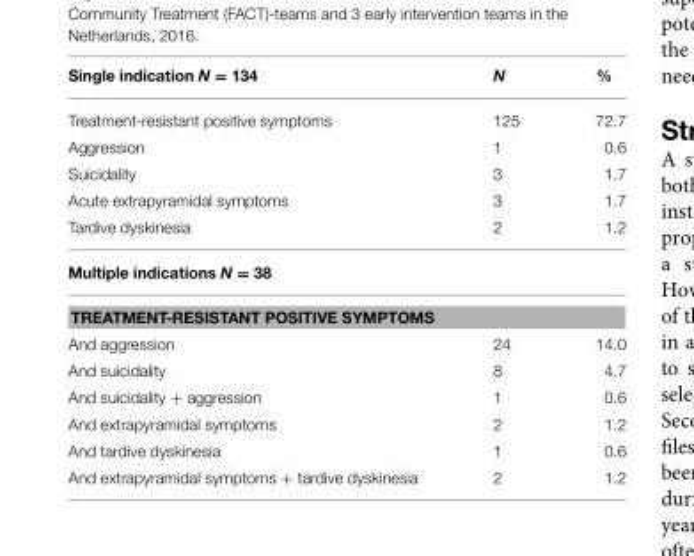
<table><thead><tr><td>Single indication N = 134</td><td>N</td><td>%</td></tr></thead><tbody><tr><td>Treatment-resistant positive symptoms</td><td>125</td><td>72.7</td></tr><tr><td>Aggression</td><td>1</td><td>0.6</td></tr><tr><td>Suicidality</td><td>3</td><td>1.7</td></tr><tr><td>Acute extrapyramidal symptoms</td><td>3</td><td>1.7</td></tr><tr><td>Tardive dyskinesia</td><td>2</td><td>1.2</td></tr><tr><td colspan="3">Multiple indications N = 38</td></tr><tr><td colspan="3">TREATMENT-RESISTANT POSITIVE SYMPTOMS</td></tr><tr><td>And aggression</td><td>24</td><td>14.0</td></tr><tr><td>And suicidality</td><td>8</td><td>4.7</td></tr><tr><td>And suicidality + aggression</td><td>1</td><td>0.6</td></tr><tr><td>And extrapyramidal symptoms</td><td>2</td><td>1.2</td></tr><tr><td>And tardive dyskinesia</td><td>1</td><td>0.6</td></tr><tr><td>And extrapyramidal symptoms + tardive dyskinesia</td><td>2</td><td>1.2</td></tr></tbody></table>